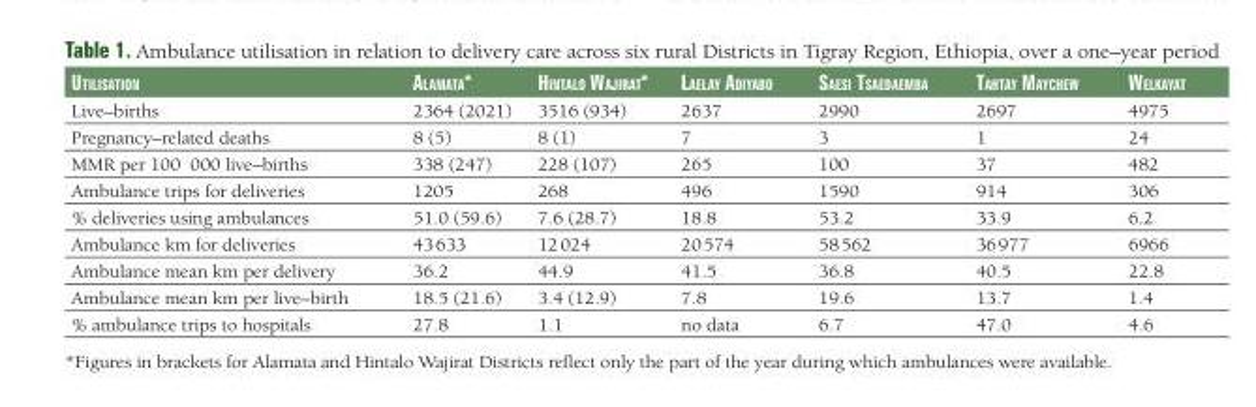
<table><thead><tr><td>Utilisation</td><td>alamata*</td><td>Hintalo Wajirat*</td><td>laelay adiyabo</td><td>saesi tsaedaemba</td><td>taHtay maycHeW</td><td>Welkayat</td></tr></thead><tbody><tr><td>Live–births</td><td>2364 (2021)</td><td>3516 (934)</td><td>2637</td><td>2990</td><td>2697</td><td>4975</td></tr><tr><td>Pregnancy–related deaths</td><td>8 (5)</td><td>8 (1)</td><td>7</td><td>3</td><td>1</td><td>24</td></tr><tr><td>MMR per 100 000 live–births</td><td>338 (247)</td><td>228 (107)</td><td>265</td><td>100</td><td>37</td><td>482</td></tr><tr><td>Ambulance trips for deliveries</td><td>1205</td><td>268</td><td>496</td><td>1590</td><td>914</td><td>306</td></tr><tr><td>% deliveries using ambulances</td><td>51.0 (59.6)</td><td>7.6 (28.7)</td><td>18.8</td><td>53.2</td><td>33.9</td><td>6.2</td></tr><tr><td>Ambulance km for deliveries</td><td>43 633</td><td>12 024</td><td>20 574</td><td>58 562</td><td>36 977</td><td>6966</td></tr><tr><td>Ambulance mean km per delivery</td><td>36.2</td><td>44.9</td><td>41.5</td><td>36.8</td><td>40.5</td><td>22.8</td></tr><tr><td>Ambulance mean km per live–birth</td><td>18.5 (21.6)</td><td>3.4 (12.9)</td><td>7.8</td><td>19.6</td><td>13.7</td><td>1.4</td></tr><tr><td>% ambulance trips to hospitals</td><td>27.8</td><td>1.1</td><td>no data</td><td>6.7</td><td>47.0</td><td>4.6</td></tr></tbody></table>